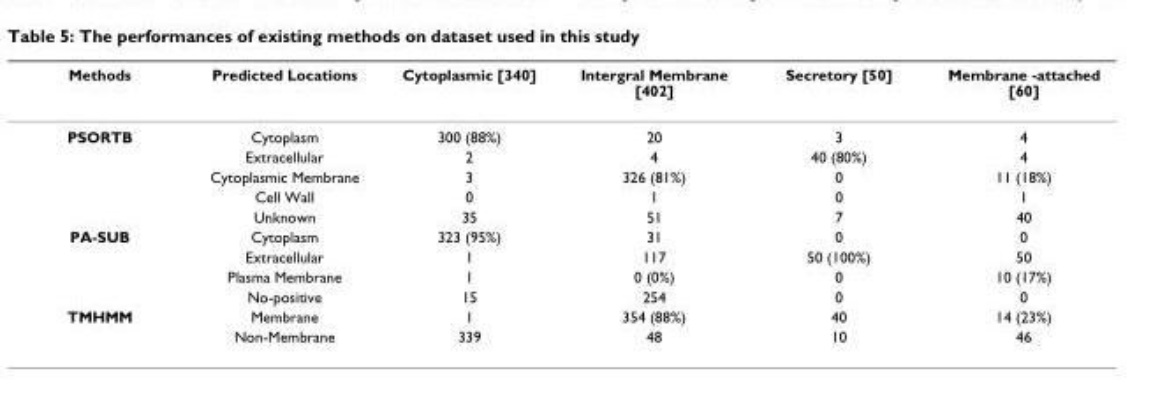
<table><thead><tr><td>Methods</td><td>Predicted Locations</td><td>Cytoplasmic [340]</td><td>Intergral Membrane [402]</td><td>Secretory [50]</td><td>Membrane -attached [60]</td></tr></thead><tbody><tr><td rowspan="5">PSORTB</td><td>Cytoplasm</td><td>300 (88%)</td><td>20</td><td>3</td><td>4</td></tr><tr><td>Extracellular</td><td>2</td><td>4</td><td>40 (80%)</td><td>4</td></tr><tr><td>Cytoplasmic Membrane</td><td>3</td><td>326 (81%)</td><td>0</td><td>11 (18%)</td></tr><tr><td>Cell Wall</td><td>0</td><td>1</td><td>0</td><td>1</td></tr><tr><td>Unknown</td><td>35</td><td>51</td><td>7</td><td>40</td></tr><tr><td rowspan="4">PA-SUB</td><td>Cytoplasm</td><td>323 (95%)</td><td>31</td><td>0</td><td>0</td></tr><tr><td>Extracellular</td><td>1</td><td>117</td><td>50 (100%)</td><td>50</td></tr><tr><td>Plasma Membrane</td><td>1</td><td>0 (0%)</td><td>0</td><td>10 (17%)</td></tr><tr><td>No-positive</td><td>15</td><td>254</td><td>0</td><td>0</td></tr><tr><td rowspan="2">TMHMM</td><td>Membrane</td><td>1</td><td>354 (88%)</td><td>40</td><td>14 (23%)</td></tr><tr><td>Non-Membrane</td><td>339</td><td>48</td><td>10</td><td>46</td></tr></tbody></table>